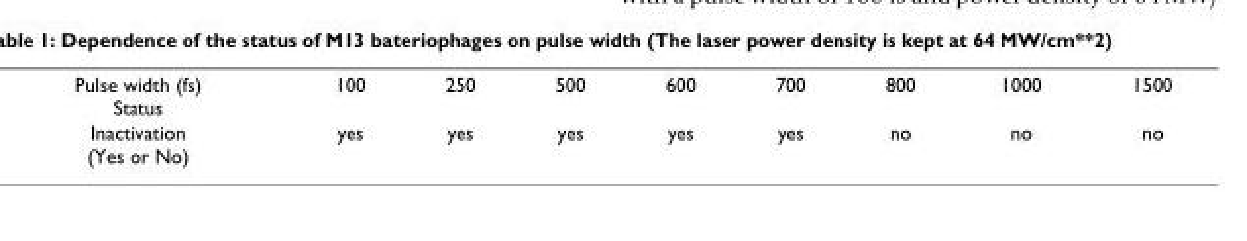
<table><tbody><tr><td>Pulse width (fs) Status</td><td>100</td><td>250</td><td>500</td><td>600</td><td>700</td><td>800</td><td>1000</td><td>1500</td></tr><tr><td>Inactivation (Yes or No)</td><td>yes</td><td>yes</td><td>yes</td><td>yes</td><td>yes</td><td>no</td><td>no</td><td>no</td></tr></tbody></table>